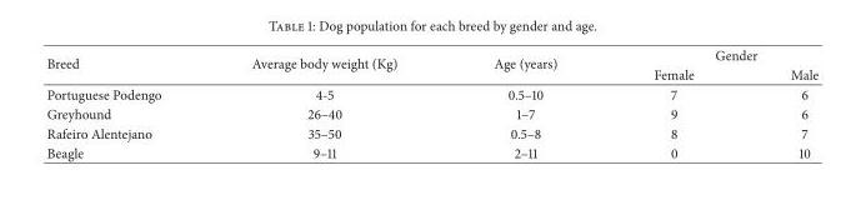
<table><thead><tr><td rowspan="2">Breed</td><td rowspan="2">Average body weight (Kg)</td><td rowspan="2">Age (years)</td><td colspan="2">Gender</td></tr><tr><td>Female</td><td>Male</td></tr></thead><tbody><tr><td>Portuguese Podengo</td><td>4-5</td><td>0.5–10</td><td>7</td><td>6</td></tr><tr><td>Greyhound</td><td>26–40</td><td>1–7</td><td>9</td><td>6</td></tr><tr><td>Rafeiro Alentejano</td><td>35–50</td><td>0.5–8</td><td>8</td><td>7</td></tr><tr><td>Beagle</td><td>9–11</td><td>2–11</td><td>0</td><td>10</td></tr></tbody></table>